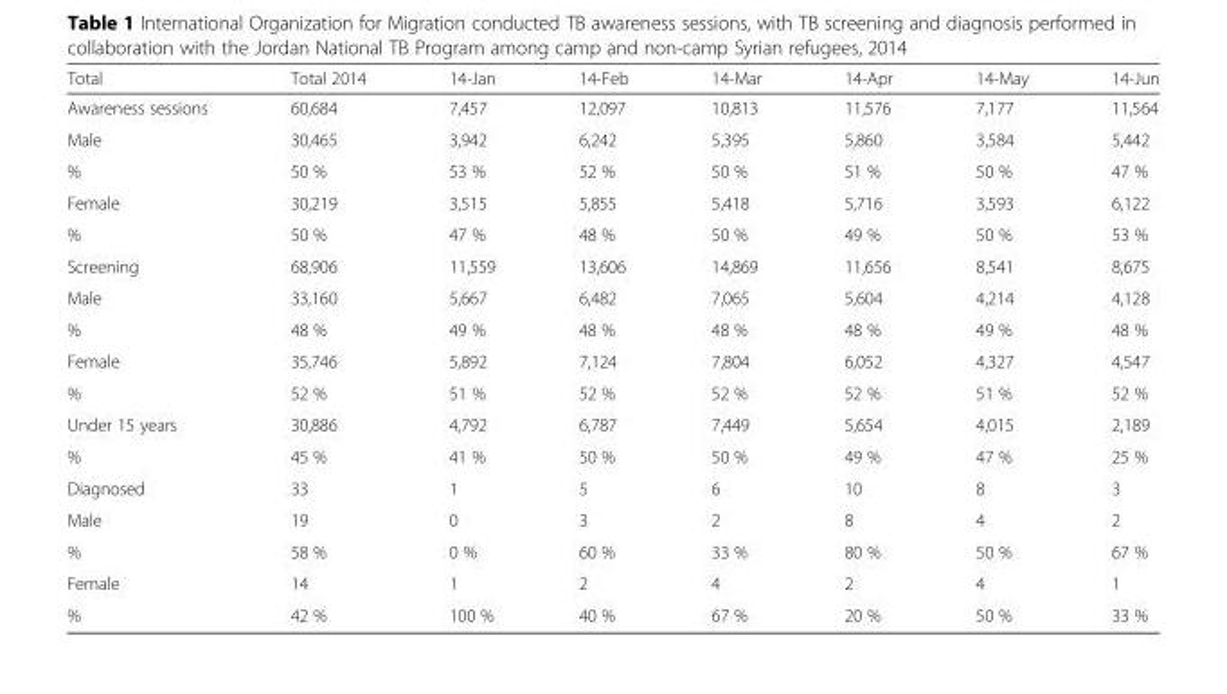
<table><thead><tr><td>Total</td><td>Total 2014</td><td>14-Jan</td><td>14-Feb</td><td>14-Mar</td><td>14-Apr</td><td>14-May</td><td>14-Jun</td></tr></thead><tbody><tr><td>Awareness sessions</td><td>60,684</td><td>7,457</td><td>12,097</td><td>10,813</td><td>11,576</td><td>7,177</td><td>11,564</td></tr><tr><td>Male</td><td>30,465</td><td>3,942</td><td>6,242</td><td>5,395</td><td>5,860</td><td>3,584</td><td>5,442</td></tr><tr><td>%</td><td>50 %</td><td>53 %</td><td>52 %</td><td>50 %</td><td>51 %</td><td>50 %</td><td>47 %</td></tr><tr><td>Female</td><td>30,219</td><td>3,515</td><td>5,855</td><td>5,418</td><td>5,716</td><td>3,593</td><td>6,122</td></tr><tr><td>%</td><td>50 %</td><td>47 %</td><td>48 %</td><td>50 %</td><td>49 %</td><td>50 %</td><td>53 %</td></tr><tr><td>Screening</td><td>68,906</td><td>11,559</td><td>13,606</td><td>14,869</td><td>11,656</td><td>8,541</td><td>8,675</td></tr><tr><td>Male</td><td>33,160</td><td>5,667</td><td>6,482</td><td>7,065</td><td>5,604</td><td>4,214</td><td>4,128</td></tr><tr><td>%</td><td>48 %</td><td>49 %</td><td>48 %</td><td>48 %</td><td>48 %</td><td>49 %</td><td>48 %</td></tr><tr><td>Female</td><td>35,746</td><td>5,892</td><td>7,124</td><td>7,804</td><td>6,052</td><td>4,327</td><td>4,547</td></tr><tr><td>%</td><td>52 %</td><td>51 %</td><td>52 %</td><td>52 %</td><td>52 %</td><td>51 %</td><td>52 %</td></tr><tr><td>Under 15 years</td><td>30,886</td><td>4,792</td><td>6,787</td><td>7,449</td><td>5,654</td><td>4,015</td><td>2,189</td></tr><tr><td>%</td><td>45 %</td><td>41 %</td><td>50 %</td><td>50 %</td><td>49 %</td><td>47 %</td><td>25 %</td></tr><tr><td>Diagnosed</td><td>33</td><td>1</td><td>5</td><td>6</td><td>10</td><td>8</td><td>3</td></tr><tr><td>Male</td><td>19</td><td>0</td><td>3</td><td>2</td><td>8</td><td>4</td><td>2</td></tr><tr><td>%</td><td>58 %</td><td>0 %</td><td>60 %</td><td>33 %</td><td>80 %</td><td>50 %</td><td>67 %</td></tr><tr><td>Female</td><td>14</td><td>1</td><td>2</td><td>4</td><td>2</td><td>4</td><td>1</td></tr><tr><td>%</td><td>42 %</td><td>100 %</td><td>40 %</td><td>67 %</td><td>20 %</td><td>50 %</td><td>33 %</td></tr></tbody></table>